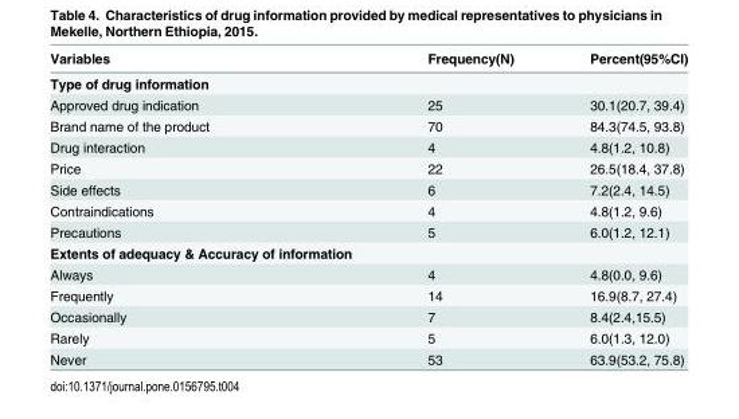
<table><thead><tr><td>Variables</td><td>Frequency(N)</td><td>Percent(95%CI)</td></tr></thead><tbody><tr><td colspan="3">Type of drug information</td></tr><tr><td>Approved drug indication</td><td>25</td><td>30.1(20.7, 39.4)</td></tr><tr><td>Brand name of the product</td><td>70</td><td>84.3(74.5, 93.8)</td></tr><tr><td>Drug interaction</td><td>4</td><td>4.8(1.2, 10.8)</td></tr><tr><td>Price</td><td>22</td><td>26.5(18.4, 37.8)</td></tr><tr><td>Side effects</td><td>6</td><td>7.2(2.4, 14.5)</td></tr><tr><td>Contraindications</td><td>4</td><td>4.8(1.2, 9.6)</td></tr><tr><td>Precautions</td><td>5</td><td>6.0(1.2, 12.1)</td></tr><tr><td colspan="3">Extents of adequacy &amp; Accuracy of information</td></tr><tr><td>Always</td><td>4</td><td>4.8(0.0, 9.6)</td></tr><tr><td>Frequently</td><td>14</td><td>16.9(8.7, 27.4)</td></tr><tr><td>Occasionally</td><td>7</td><td>8.4(2.4,15.5)</td></tr><tr><td>Rarely</td><td>5</td><td>6.0(1.3, 12.0)</td></tr><tr><td>Never</td><td>53</td><td>63.9(53.2, 75.8)</td></tr></tbody></table>